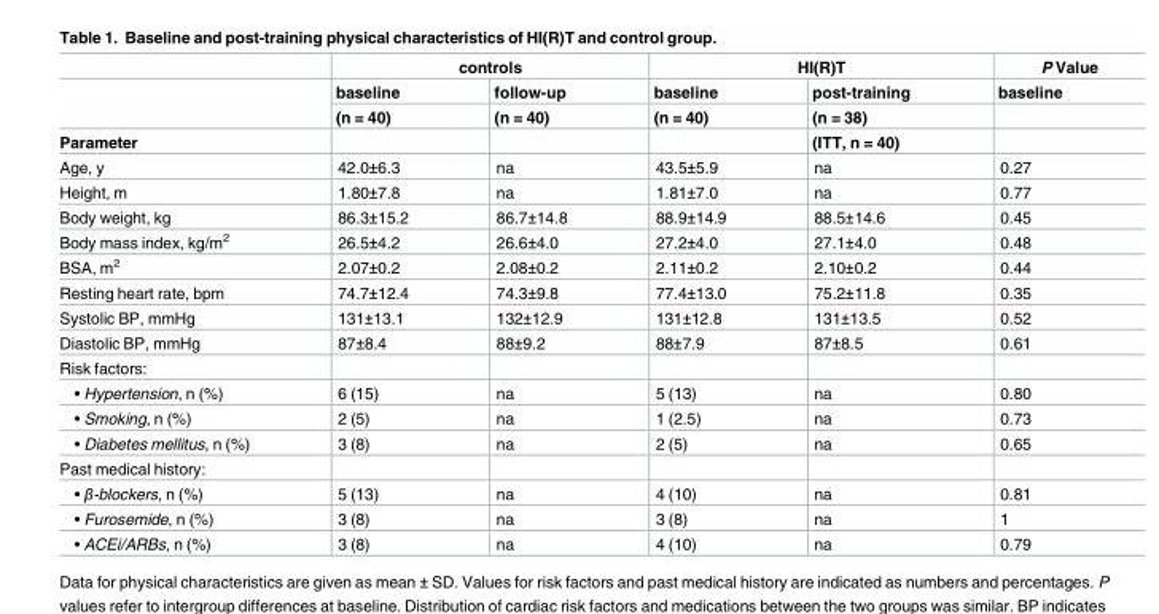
<table><thead><tr><td rowspan="4">Parameter</td><td colspan="2">controls</td><td colspan="2">HI(R)T</td><td rowspan="4">P Value baseline</td></tr><tr><td rowspan="3">baseline (n = 40)</td><td rowspan="3">follow-up (n = 40)</td><td rowspan="3">baseline (n = 40)</td><td rowspan="3">post-training (n = 38) (ITT, n = 40)</td></tr><tr></tr><tr></tr></thead><tbody><tr><td>Age, y</td><td>42.0±6.3</td><td>na</td><td>43.5±5.9</td><td>na</td><td>0.27</td></tr><tr><td>Height, m</td><td>1.80±7.8</td><td>na</td><td>1.81±7.0</td><td>na</td><td>0.77</td></tr><tr><td>Body weight, kg</td><td>86.3±15.2</td><td>86.7±14.8</td><td>88.9±14.9</td><td>88.5±14.6</td><td>0.45</td></tr><tr><td>Body mass index, kg/m<sup>2</sup></td><td>26.5±4.2</td><td>26.6±4.0</td><td>27.2±4.0</td><td>27.1±4.0</td><td>0.48</td></tr><tr><td>BSA, m<sup>2</sup></td><td>2.07±0.2</td><td>2.08±0.2</td><td>2.11±0.2</td><td>2.10±0.2</td><td>0.44</td></tr><tr><td>Resting heart rate, bpm</td><td>74.7±12.4</td><td>74.3±9.8</td><td>77.4±13.0</td><td>75.2±11.8</td><td>0.35</td></tr><tr><td>Systolic BP, mmHg</td><td>131±13.1</td><td>132±12.9</td><td>131±12.8</td><td>131±13.5</td><td>0.52</td></tr><tr><td>Diastolic BP, mmHg</td><td>87±8.4</td><td>88±9.2</td><td>88±7.9</td><td>87±8.5</td><td>0.61</td></tr><tr><td colspan="6">Risk factors:</td></tr><tr><td>• Hypertension, n (%)</td><td>6 (15)</td><td>na</td><td>5 (13)</td><td>na</td><td>0.80</td></tr><tr><td>• Smoking, n (%)</td><td>2 (5)</td><td>na</td><td>1 (2.5)</td><td>na</td><td>0.73</td></tr><tr><td>• Diabetes mellitus, n (%)</td><td>3 (8)</td><td>na</td><td>2 (5)</td><td>na</td><td>0.65</td></tr><tr><td colspan="6">Past medical history:</td></tr><tr><td>• β-blockers, n (%)</td><td>5 (13)</td><td>na</td><td>4 (10)</td><td>na</td><td>0.81</td></tr><tr><td>• Furosemide, n (%)</td><td>3 (8)</td><td>na</td><td>3 (8)</td><td>na</td><td>1</td></tr><tr><td>• ACEi/ARBs, n (%)</td><td>3 (8)</td><td>na</td><td>4 (10)</td><td>na</td><td>0.79</td></tr></tbody></table>